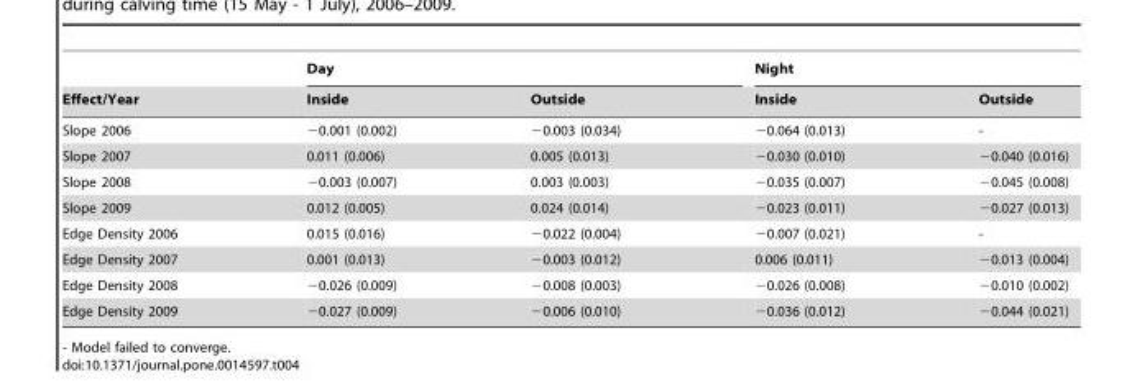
<table><thead><tr><td rowspan="2">Effect/Year</td><td colspan="2">Day</td><td colspan="2">Night</td></tr><tr><td>Inside</td><td>Outside</td><td>Inside</td><td>Outside</td></tr></thead><tbody><tr><td>Slope 2006</td><td>−0.001 (0.002)</td><td>−0.003 (0.034)</td><td>−0.064 (0.013)</td><td>-</td></tr><tr><td>Slope 2007</td><td>0.011 (0.006)</td><td>0.005 (0.013)</td><td>−0.030 (0.010)</td><td>−0.040 (0.016)</td></tr><tr><td>Slope 2008</td><td>−0.003 (0.007)</td><td>0.003 (0.003)</td><td>−0.035 (0.007)</td><td>−0.045 (0.008)</td></tr><tr><td>Slope 2009</td><td>0.012 (0.005)</td><td>0.024 (0.014)</td><td>−0.023 (0.011)</td><td>−0.027 (0.013)</td></tr><tr><td>Edge Density 2006</td><td>0.015 (0.016)</td><td>−0.022 (0.004)</td><td>−0.007 (0.021)</td><td>-</td></tr><tr><td>Edge Density 2007</td><td>0.001 (0.013)</td><td>−0.003 (0.012)</td><td>0.006 (0.011)</td><td>−0.013 (0.004)</td></tr><tr><td>Edge Density 2008</td><td>−0.026 (0.009)</td><td>−0.008 (0.003)</td><td>−0.026 (0.008)</td><td>−0.010 (0.002)</td></tr><tr><td>Edge Density 2009</td><td>−0.027 (0.009)</td><td>−0.006 (0.010)</td><td>−0.036 (0.012)</td><td>−0.044 (0.021)</td></tr></tbody></table>